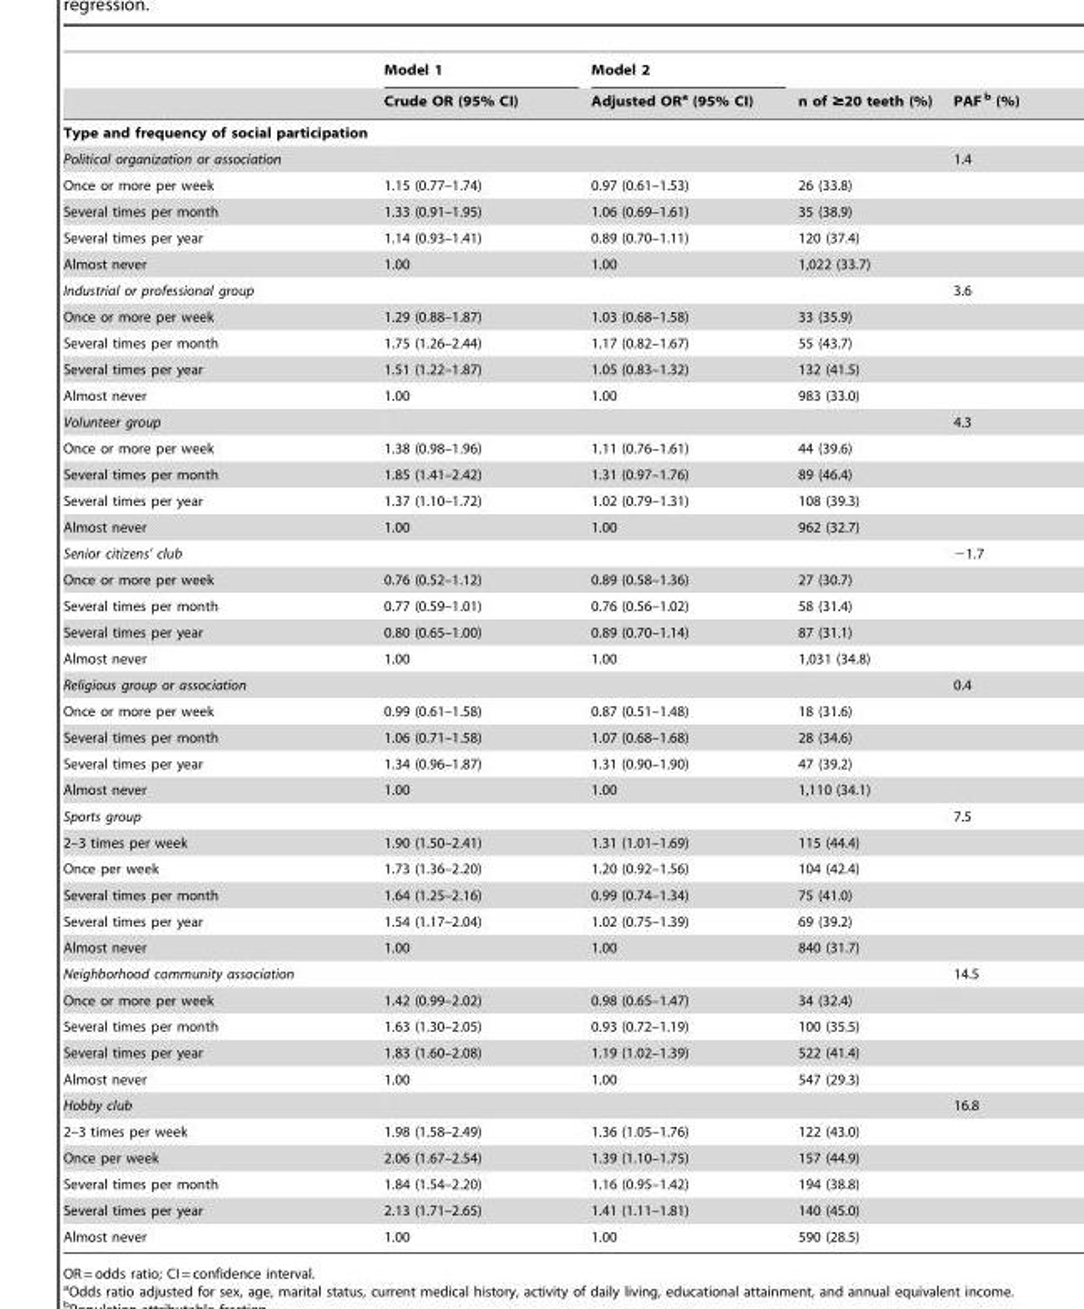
<table><thead><tr><td rowspan="2"></td><td rowspan="2">Model 1 Crude OR (95% CI)</td><td rowspan="2">Model 2 Adjusted OR<sup>a</sup> (95% CI)</td><td rowspan="2">n of ≥20 teeth (%)</td><td rowspan="2">PAF <sup>b</sup> (%)</td></tr><tr></tr></thead><tbody><tr><td colspan="5">Type and frequency of social participation</td></tr><tr><td>Political organization or association</td><td></td><td></td><td></td><td>1.4</td></tr><tr><td>Once or more per week</td><td>1.15 (0.77–1.74)</td><td>0.97 (0.61–1.53)</td><td>26 (33.8)</td><td></td></tr><tr><td>Several times per month</td><td>1.33 (0.91–1.95)</td><td>1.06 (0.69–1.61)</td><td>35 (38.9)</td><td></td></tr><tr><td>Several times per year</td><td>1.14 (0.93–1.41)</td><td>0.89 (0.70–1.11)</td><td>120 (37.4)</td><td></td></tr><tr><td>Almost never</td><td>1.00</td><td>1.00</td><td>1,022 (33.7)</td><td></td></tr><tr><td>Industrial or professional group</td><td></td><td></td><td></td><td>3.6</td></tr><tr><td>Once or more per week</td><td>1.29 (0.88–1.87)</td><td>1.03 (0.68–1.58)</td><td>33 (35.9)</td><td></td></tr><tr><td>Several times per month</td><td>1.75 (1.26–2.44)</td><td>1.17 (0.82–1.67)</td><td>55 (43.7)</td><td></td></tr><tr><td>Several times per year</td><td>1.51 (1.22–1.87)</td><td>1.05 (0.83–1.32)</td><td>132 (41.5)</td><td></td></tr><tr><td>Almost never</td><td>1.00</td><td>1.00</td><td>983 (33.0)</td><td></td></tr><tr><td>Volunteer group</td><td></td><td></td><td></td><td>4.3</td></tr><tr><td>Once or more per week</td><td>1.38 (0.98–1.96)</td><td>1.11 (0.76–1.61)</td><td>44 (39.6)</td><td></td></tr><tr><td>Several times per month</td><td>1.85 (1.41–2.42)</td><td>1.31 (0.97–1.76)</td><td>89 (46.4)</td><td></td></tr><tr><td>Several times per year</td><td>1.37 (1.10–1.72)</td><td>1.02 (0.79–1.31)</td><td>108 (39.3)</td><td></td></tr><tr><td>Almost never</td><td>1.00</td><td>1.00</td><td>962 (32.7)</td><td></td></tr><tr><td>Senior citizens’ club</td><td></td><td></td><td></td><td>−1.7</td></tr><tr><td>Once or more per week</td><td>0.76 (0.52–1.12)</td><td>0.89 (0.58–1.36)</td><td>27 (30.7)</td><td></td></tr><tr><td>Several times per month</td><td>0.77 (0.59–1.01)</td><td>0.76 (0.56–1.02)</td><td>58 (31.4)</td><td></td></tr><tr><td>Several times per year</td><td>0.80 (0.65–1.00)</td><td>0.89 (0.70–1.14)</td><td>87 (31.1)</td><td></td></tr><tr><td>Almost never</td><td>1.00</td><td>1.00</td><td>1,031 (34.8)</td><td></td></tr><tr><td>Religious group or association</td><td></td><td></td><td></td><td>0.4</td></tr><tr><td>Once or more per week</td><td>0.99 (0.61–1.58)</td><td>0.87 (0.51–1.48)</td><td>18 (31.6)</td><td></td></tr><tr><td>Several times per month</td><td>1.06 (0.71–1.58)</td><td>1.07 (0.68–1.68)</td><td>28 (34.6)</td><td></td></tr><tr><td>Several times per year</td><td>1.34 (0.96–1.87)</td><td>1.31 (0.90–1.90)</td><td>47 (39.2)</td><td></td></tr><tr><td>Almost never</td><td>1.00</td><td>1.00</td><td>1,110 (34.1)</td><td></td></tr><tr><td>Sports group</td><td></td><td></td><td></td><td>7.5</td></tr><tr><td>2–3 times per week</td><td>1.90 (1.50–2.41)</td><td>1.31 (1.01–1.69)</td><td>115 (44.4)</td><td></td></tr><tr><td>Once per week</td><td>1.73 (1.36–2.20)</td><td>1.20 (0.92–1.56)</td><td>104 (42.4)</td><td></td></tr><tr><td>Several times per month</td><td>1.64 (1.25–2.16)</td><td>0.99 (0.74–1.34)</td><td>75 (41.0)</td><td></td></tr><tr><td>Several times per year</td><td>1.54 (1.17–2.04)</td><td>1.02 (0.75–1.39)</td><td>69 (39.2)</td><td></td></tr><tr><td>Almost never</td><td>1.00</td><td>1.00</td><td>840 (31.7)</td><td></td></tr><tr><td>Neighborhood community association</td><td></td><td></td><td></td><td>14.5</td></tr><tr><td>Once or more per week</td><td>1.42 (0.99–2.02)</td><td>0.98 (0.65–1.47)</td><td>34 (32.4)</td><td></td></tr><tr><td>Several times per month</td><td>1.63 (1.30–2.05)</td><td>0.93 (0.72–1.19)</td><td>100 (35.5)</td><td></td></tr><tr><td>Several times per year</td><td>1.83 (1.60–2.08)</td><td>1.19 (1.02–1.39)</td><td>522 (41.4)</td><td></td></tr><tr><td>Almost never</td><td>1.00</td><td>1.00</td><td>547 (29.3)</td><td></td></tr><tr><td>Hobby club</td><td></td><td></td><td></td><td>16.8</td></tr><tr><td>2–3 times per week</td><td>1.98 (1.58–2.49)</td><td>1.36 (1.05–1.76)</td><td>122 (43.0)</td><td></td></tr><tr><td>Once per week</td><td>2.06 (1.67–2.54)</td><td>1.39 (1.10–1.75)</td><td>157 (44.9)</td><td></td></tr><tr><td>Several times per month</td><td>1.84 (1.54–2.20)</td><td>1.16 (0.95–1.42)</td><td>194 (38.8)</td><td></td></tr><tr><td>Several times per year</td><td>2.13 (1.71–2.65)</td><td>1.41 (1.11–1.81)</td><td>140 (45.0)</td><td></td></tr><tr><td>Almost never</td><td>1.00</td><td>1.00</td><td>590 (28.5)</td><td></td></tr></tbody></table>